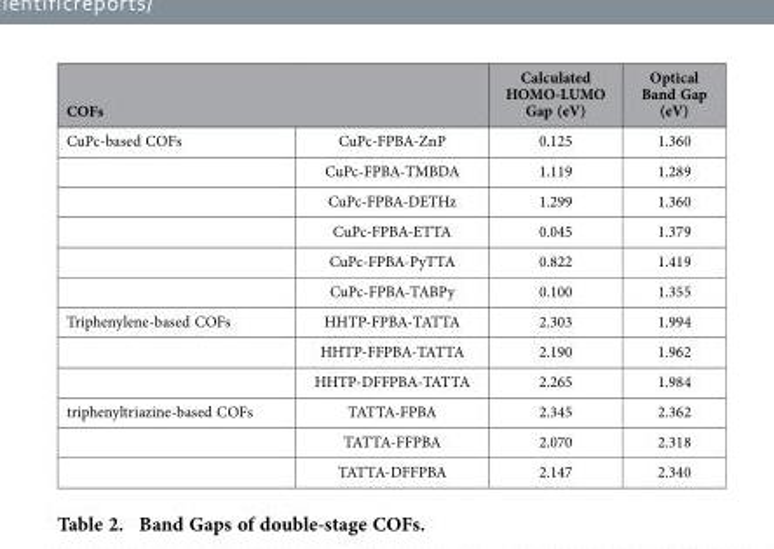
<table><thead><tr><td colspan="2">COFs</td><td rowspan="2">Calculated HOMO-LUMO Gap (eV) 0.125</td><td rowspan="2">Optical Band Gap (eV) 1.360</td></tr><tr><td>CuPc-based COFs</td><td>CuPc-FPBA-ZnP</td></tr></thead><tbody><tr><td></td><td>CuPc-FPBA-TMBDA</td><td>1.119</td><td>1.289</td></tr><tr><td></td><td>CuPc-FPBA-DETHz</td><td>1.299</td><td>1.360</td></tr><tr><td></td><td>CuPc-FPBA-ETTA</td><td>0.045</td><td>1.379</td></tr><tr><td></td><td>CuPc-FPBA-PyTTA</td><td>0.822</td><td>1.419</td></tr><tr><td></td><td>CuPc-FPBA-TABPy</td><td>0.100</td><td>1.355</td></tr><tr><td rowspan="3">Triphenylene-based COFs</td><td>HHTP-FPBA-TATTA</td><td>2.303</td><td>1.994</td></tr><tr><td>HHTP-FFPBA-TATTA</td><td>2.190</td><td>1.962</td></tr><tr><td>HHTP-DFFPBA-TATTA</td><td>2.265</td><td>1.984</td></tr><tr><td rowspan="3">triphenyltriazine-based COFs</td><td>TATTA-FPBA</td><td>2.345</td><td>2.362</td></tr><tr><td>TATTA-FFPBA</td><td>2.070</td><td>2.318</td></tr><tr><td>TATTA-DFFPBA</td><td>2.147</td><td>2.340</td></tr></tbody></table>